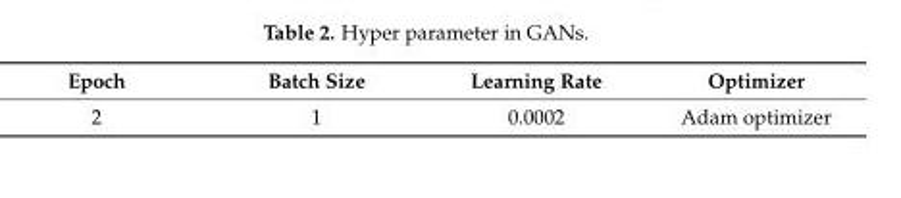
<table><thead><tr><td>Epoch</td><td>Batch Size</td><td>Learning Rate</td><td>Optimizer</td></tr></thead><tbody><tr><td>2</td><td>1</td><td>0.0002</td><td>Adam optimizer</td></tr></tbody></table>